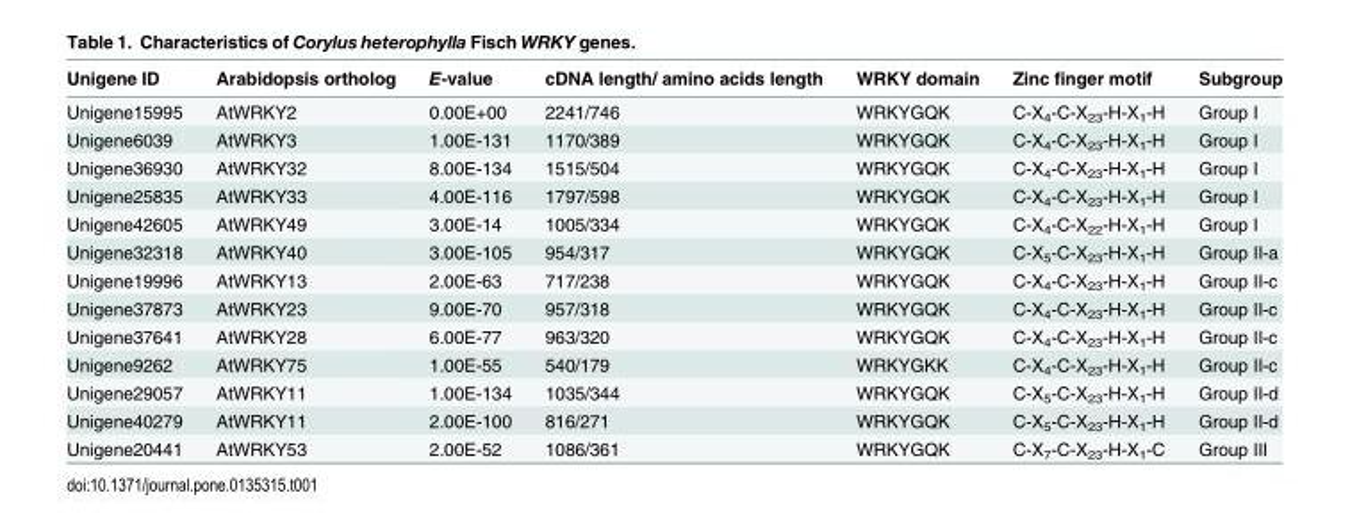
<table><thead><tr><td>Unigene ID</td><td>Arabidopsis ortholog</td><td>E-value</td><td>cDNA length/ amino acids length</td><td>WRKY domain</td><td>Zinc finger motif</td><td>Subgroup</td></tr></thead><tbody><tr><td>Unigene15995</td><td>AtWRKY2</td><td>0.00E+00</td><td>2241/746</td><td>WRKYGQK</td><td>C-X<sub>4</sub>-C-X<sub>23</sub>-H-X<sub>1</sub>-H</td><td>Group I</td></tr><tr><td>Unigene6039</td><td>AtWRKY3</td><td>1.00E-131</td><td>1170/389</td><td>WRKYGQK</td><td>C-X<sub>4</sub>-C-X<sub>23</sub>-H-X<sub>1</sub>-H</td><td>Group I</td></tr><tr><td>Unigene36930</td><td>AtWRKY32</td><td>8.00E-134</td><td>1515/504</td><td>WRKYGQK</td><td>C-X<sub>4</sub>-C-X<sub>23</sub>-H-X<sub>1</sub>-H</td><td>Group I</td></tr><tr><td>Unigene25835</td><td>AtWRKY33</td><td>4.00E-116</td><td>1797/598</td><td>WRKYGQK</td><td>C-X<sub>4</sub>-C-X<sub>23</sub>-H-X<sub>1</sub>-H</td><td>Group I</td></tr><tr><td>Unigene42605</td><td>AtWRKY49</td><td>3.00E-14</td><td>1005/334</td><td>WRKYGQK</td><td>C-X<sub>4</sub>-C-X<sub>22</sub>-H-X<sub>1</sub>-H</td><td>Group I</td></tr><tr><td>Unigene32318</td><td>AtWRKY40</td><td>3.00E-105</td><td>954/317</td><td>WRKYGQK</td><td>C-X<sub>5</sub>-C-X<sub>23</sub>-H-X<sub>1</sub>-H</td><td>Group II-a</td></tr><tr><td>Unigene19996</td><td>AtWRKY13</td><td>2.00E-63</td><td>717/238</td><td>WRKYGQK</td><td>C-X<sub>4</sub>-C-X<sub>23</sub>-H-X<sub>1</sub>-H</td><td>Group II-c</td></tr><tr><td>Unigene37873</td><td>AtWRKY23</td><td>9.00E-70</td><td>957/318</td><td>WRKYGQK</td><td>C-X<sub>4</sub>-C-X<sub>23</sub>-H-X<sub>1</sub>-H</td><td>Group II-c</td></tr><tr><td>Unigene37641</td><td>AtWRKY28</td><td>6.00E-77</td><td>963/320</td><td>WRKYGQK</td><td>C-X<sub>4</sub>-C-X<sub>23</sub>-H-X<sub>1</sub>-H</td><td>Group II-c</td></tr><tr><td>Unigene9262</td><td>AtWRKY75</td><td>1.00E-55</td><td>540/179</td><td>WRKYGKK</td><td>C-X<sub>4</sub>-C-X<sub>23</sub>-H-X<sub>1</sub>-H</td><td>Group II-c</td></tr><tr><td>Unigene29057</td><td>AtWRKY11</td><td>1.00E-134</td><td>1035/344</td><td>WRKYGQK</td><td>C-X<sub>5</sub>-C-X<sub>23</sub>-H-X<sub>1</sub>-H</td><td>Group II-d</td></tr><tr><td>Unigene40279</td><td>AtWRKY11</td><td>2.00E-100</td><td>816/271</td><td>WRKYGQK</td><td>C-X<sub>5</sub>-C-X<sub>23</sub>-H-X<sub>1</sub>-H</td><td>Group II-d</td></tr><tr><td>Unigene20441</td><td>AtWRKY53</td><td>2.00E-52</td><td>1086/361</td><td>WRKYGQK</td><td>C-X<sub>7</sub>-C-X<sub>23</sub>-H-X<sub>1</sub>-C</td><td>Group III</td></tr></tbody></table>